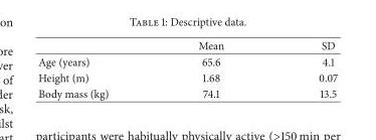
<table><thead><tr><td></td><td>Mean</td><td>SD</td></tr></thead><tbody><tr><td>Age (years)</td><td>65.6</td><td>4.1</td></tr><tr><td>Height (m)</td><td>1.68</td><td>0.07</td></tr><tr><td>Body mass (kg)</td><td>74.1</td><td>13.5</td></tr></tbody></table>